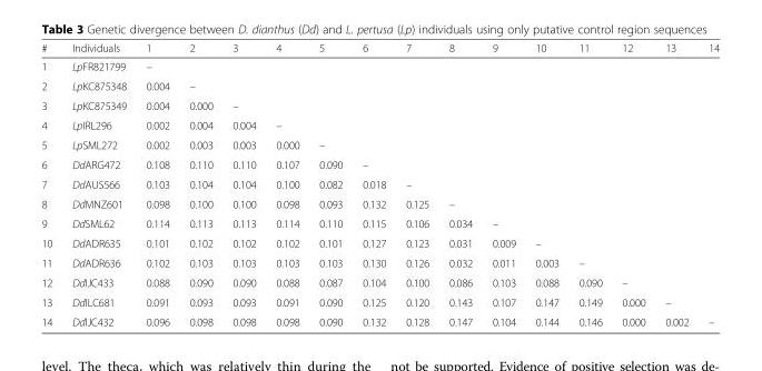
<table><thead><tr><td>#</td><td>Individuals</td><td>1</td><td>2</td><td>3</td><td>4</td><td>5</td><td>6</td><td>7</td><td>8</td><td>9</td><td>10</td><td>11</td><td>12</td><td>13</td><td>14</td></tr></thead><tbody><tr><td>1</td><td>LpFR821799</td><td>–</td><td></td><td></td><td></td><td></td><td></td><td></td><td></td><td></td><td></td><td></td><td></td><td></td><td></td></tr><tr><td>2</td><td>LpKC875348</td><td>0.004</td><td>–</td><td></td><td></td><td></td><td></td><td></td><td></td><td></td><td></td><td></td><td></td><td></td><td></td></tr><tr><td>3</td><td>LpKC875349</td><td>0.004</td><td>0.000</td><td>–</td><td></td><td></td><td></td><td></td><td></td><td></td><td></td><td></td><td></td><td></td><td></td></tr><tr><td>4</td><td>LpIRL296</td><td>0.002</td><td>0.004</td><td>0.004</td><td>–</td><td></td><td></td><td></td><td></td><td></td><td></td><td></td><td></td><td></td><td></td></tr><tr><td>5</td><td>LpSML272</td><td>0.002</td><td>0.003</td><td>0.003</td><td>0.000</td><td>–</td><td></td><td></td><td></td><td></td><td></td><td></td><td></td><td></td><td></td></tr><tr><td>6</td><td>DdARG472</td><td>0.108</td><td>0.110</td><td>0.110</td><td>0.107</td><td>0.090</td><td>–</td><td></td><td></td><td></td><td></td><td></td><td></td><td></td><td></td></tr><tr><td>7</td><td>DdAUS566</td><td>0.103</td><td>0.104</td><td>0.104</td><td>0.100</td><td>0.082</td><td>0.018</td><td>–</td><td></td><td></td><td></td><td></td><td></td><td></td><td></td></tr><tr><td>8</td><td>DdMNZ601</td><td>0.098</td><td>0.100</td><td>0.100</td><td>0.098</td><td>0.093</td><td>0.132</td><td>0.125</td><td>–</td><td></td><td></td><td></td><td></td><td></td><td></td></tr><tr><td>9</td><td>DdSML62</td><td>0.114</td><td>0.113</td><td>0.113</td><td>0.114</td><td>0.110</td><td>0.115</td><td>0.106</td><td>0.034</td><td>–</td><td></td><td></td><td></td><td></td><td></td></tr><tr><td>10</td><td>DdADR635</td><td>0.101</td><td>0.102</td><td>0.102</td><td>0.102</td><td>0.101</td><td>0.127</td><td>0.123</td><td>0.031</td><td>0.009</td><td>–</td><td></td><td></td><td></td><td></td></tr><tr><td>11</td><td>DdADR636</td><td>0.102</td><td>0.103</td><td>0.103</td><td>0.103</td><td>0.103</td><td>0.130</td><td>0.126</td><td>0.032</td><td>0.011</td><td>0.003</td><td>–</td><td></td><td></td><td></td></tr><tr><td>12</td><td>DdIJC433</td><td>0.088</td><td>0.090</td><td>0.090</td><td>0.088</td><td>0.087</td><td>0.104</td><td>0.100</td><td>0.086</td><td>0.103</td><td>0.088</td><td>0.090</td><td>–</td><td></td><td></td></tr><tr><td>13</td><td>DdILC681</td><td>0.091</td><td>0.093</td><td>0.093</td><td>0.091</td><td>0.090</td><td>0.125</td><td>0.120</td><td>0.143</td><td>0.107</td><td>0.147</td><td>0.149</td><td>0.000</td><td>–</td><td></td></tr><tr><td>14</td><td>DdIJC432</td><td>0.096</td><td>0.098</td><td>0.098</td><td>0.098</td><td>0.090</td><td>0.132</td><td>0.128</td><td>0.147</td><td>0.104</td><td>0.144</td><td>0.146</td><td>0.000</td><td>0.002</td><td>–</td></tr></tbody></table>